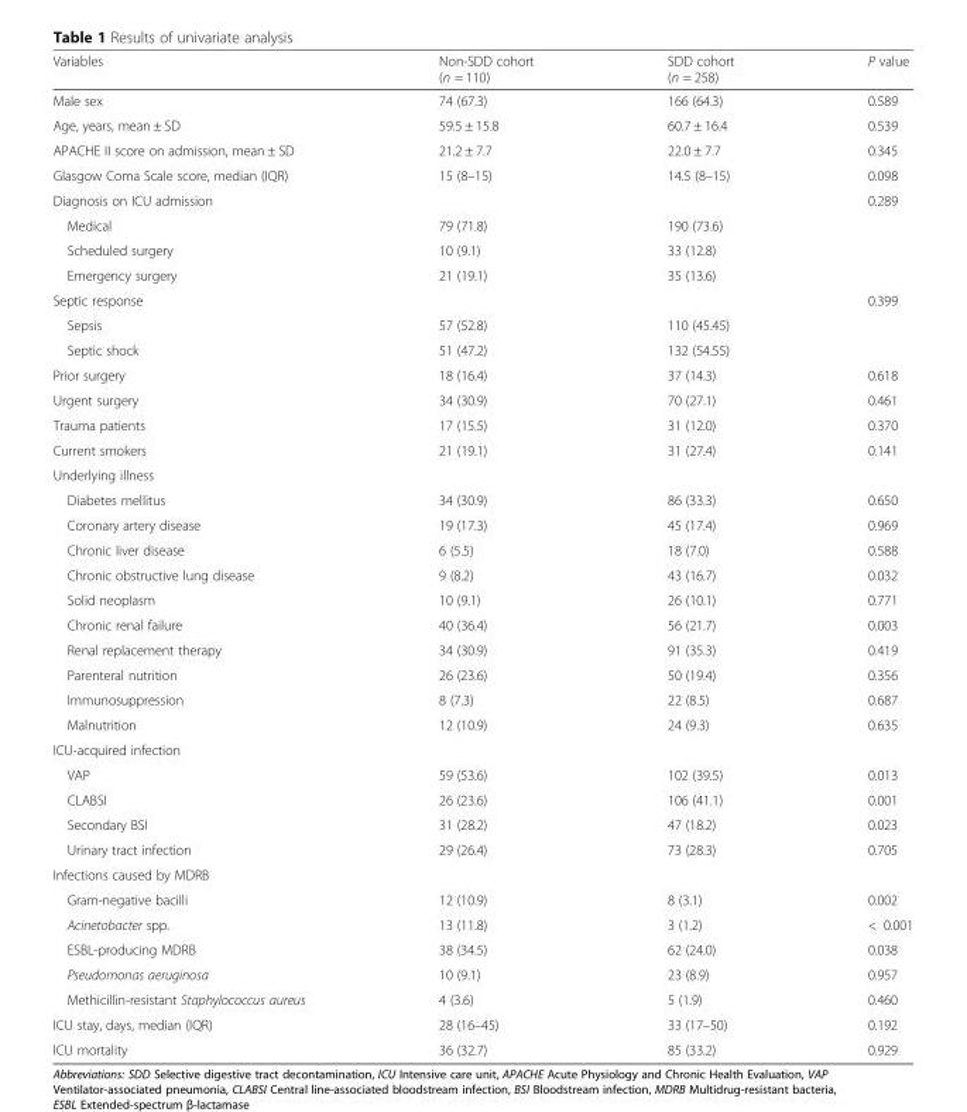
<table><thead><tr><td>Variables</td><td>Non-SDD cohort (n = 110)</td><td>SDD cohort (n = 258)</td><td>P value</td></tr></thead><tbody><tr><td>Male sex</td><td>74 (67.3)</td><td>166 (64.3)</td><td>0.589</td></tr><tr><td>Age, years, mean ± SD</td><td>59.5 ± 15.8</td><td>60.7 ± 16.4</td><td>0.539</td></tr><tr><td>APACHE II score on admission, mean ± SD</td><td>21.2 ± 7.7</td><td>22.0 ± 7.7</td><td>0.345</td></tr><tr><td>Glasgow Coma Scale score, median (IQR)</td><td>15 (8–15)</td><td>14.5 (8–15)</td><td>0.098</td></tr><tr><td>Diagnosis on ICU admission</td><td></td><td></td><td>0.289</td></tr><tr><td>Medical</td><td>79 (71.8)</td><td>190 (73.6)</td><td></td></tr><tr><td>Scheduled surgery</td><td>10 (9.1)</td><td>33 (12.8)</td><td></td></tr><tr><td>Emergency surgery</td><td>21 (19.1)</td><td>35 (13.6)</td><td></td></tr><tr><td>Septic response</td><td></td><td></td><td>0.399</td></tr><tr><td>Sepsis</td><td>57 (52.8)</td><td>110 (45.45)</td><td></td></tr><tr><td>Septic shock</td><td>51 (47.2)</td><td>132 (54.55)</td><td></td></tr><tr><td>Prior surgery</td><td>18 (16.4)</td><td>37 (14.3)</td><td>0.618</td></tr><tr><td>Urgent surgery</td><td>34 (30.9)</td><td>70 (27.1)</td><td>0.461</td></tr><tr><td>Trauma patients</td><td>17 (15.5)</td><td>31 (12.0)</td><td>0.370</td></tr><tr><td>Current smokers</td><td>21 (19.1)</td><td>31 (27.4)</td><td>0.141</td></tr><tr><td colspan="4">Underlying illness</td></tr><tr><td>Diabetes mellitus</td><td>34 (30.9)</td><td>86 (33.3)</td><td>0.650</td></tr><tr><td>Coronary artery disease</td><td>19 (17.3)</td><td>45 (17.4)</td><td>0.969</td></tr><tr><td>Chronic liver disease</td><td>6 (5.5)</td><td>18 (7.0)</td><td>0.588</td></tr><tr><td>Chronic obstructive lung disease</td><td>9 (8.2)</td><td>43 (16.7)</td><td>0.032</td></tr><tr><td>Solid neoplasm</td><td>10 (9.1)</td><td>26 (10.1)</td><td>0.771</td></tr><tr><td>Chronic renal failure</td><td>40 (36.4)</td><td>56 (21.7)</td><td>0.003</td></tr><tr><td>Renal replacement therapy</td><td>34 (30.9)</td><td>91 (35.3)</td><td>0.419</td></tr><tr><td>Parenteral nutrition</td><td>26 (23.6)</td><td>50 (19.4)</td><td>0.356</td></tr><tr><td>Immunosuppression</td><td>8 (7.3)</td><td>22 (8.5)</td><td>0.687</td></tr><tr><td>Malnutrition</td><td>12 (10.9)</td><td>24 (9.3)</td><td>0.635</td></tr><tr><td colspan="4">ICU-acquired infection</td></tr><tr><td>VAP</td><td>59 (53.6)</td><td>102 (39.5)</td><td>0.013</td></tr><tr><td>CLABSI</td><td>26 (23.6)</td><td>106 (41.1)</td><td>0.001</td></tr><tr><td>Secondary BSI</td><td>31 (28.2)</td><td>47 (18.2)</td><td>0.023</td></tr><tr><td>Urinary tract infection</td><td>29 (26.4)</td><td>73 (28.3)</td><td>0.705</td></tr><tr><td colspan="4">Infections caused by MDRB</td></tr><tr><td>Gram-negative bacilli</td><td>12 (10.9)</td><td>8 (3.1)</td><td>0.002</td></tr><tr><td>Acinetobacter spp.</td><td>13 (11.8)</td><td>3 (1.2)</td><td>&lt; 0.001</td></tr><tr><td>ESBL-producing MDRB</td><td>38 (34.5)</td><td>62 (24.0)</td><td>0.038</td></tr><tr><td>Pseudomonas aeruginosa</td><td>10 (9.1)</td><td>23 (8.9)</td><td>0.957</td></tr><tr><td>Methicillin-resistant Staphylococcus aureus</td><td>4 (3.6)</td><td>5 (1.9)</td><td>0.460</td></tr><tr><td>ICU stay, days, median (IQR)</td><td>28 (16–45)</td><td>33 (17–50)</td><td>0.192</td></tr><tr><td>ICU mortality</td><td>36 (32.7)</td><td>85 (33.2)</td><td>0.929</td></tr></tbody></table>